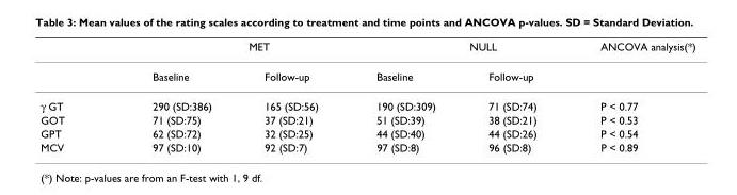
<table><thead><tr><td rowspan="2"></td><td colspan="2">MET</td><td colspan="2">NULL</td><td rowspan="2">ANCOVA analysis(*)</td></tr><tr><td>Baseline</td><td>Follow-up</td><td>Baseline</td><td>Follow-up</td></tr></thead><tbody><tr><td>γ GT</td><td>290 (SD:386)</td><td>165 (SD:56)</td><td>190 (SD:309)</td><td>71 (SD:74)</td><td>P &lt; 0.77</td></tr><tr><td>GOT</td><td>71 (SD:75)</td><td>37 (SD:21)</td><td>51 (SD:39)</td><td>38 (SD:21)</td><td>P &lt; 0.53</td></tr><tr><td>GPT</td><td>62 (SD:72)</td><td>32 (SD:25)</td><td>44 (SD:40)</td><td>44 (SD:26)</td><td>P &lt; 0.54</td></tr><tr><td>MCV</td><td>97 (SD:10)</td><td>92 (SD:7)</td><td>97 (SD:8)</td><td>96 (SD:8)</td><td>P &lt; 0.89</td></tr></tbody></table>